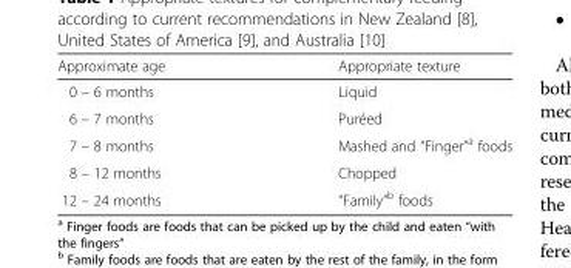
<table><thead><tr><td>Approximate age</td><td>Appropriate texture</td></tr></thead><tbody><tr><td>0 – 6 months</td><td>Liquid</td></tr><tr><td>6 – 7 months</td><td>Puréed</td></tr><tr><td>7 – 8 months</td><td>Mashed and “Finger”<sup>a</sup> foods</td></tr><tr><td>8 – 12 months</td><td>Chopped</td></tr><tr><td>12 – 24 months</td><td>“Family”<sup>b</sup> foods</td></tr></tbody></table>